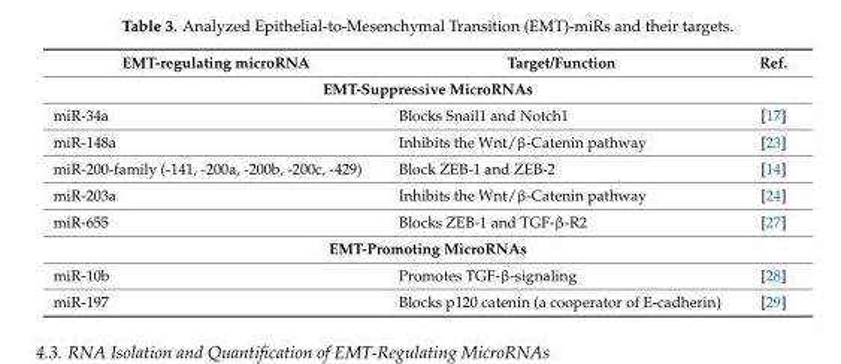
<table><thead><tr><td>EMT-regulating microRNA</td><td>Target/Function</td><td>Ref.</td></tr></thead><tbody><tr><td colspan="3">EMT-Suppressive MicroRNAs</td></tr><tr><td>miR-34a</td><td>Blocks Snail1 and Notch1</td><td>[17]</td></tr><tr><td>miR-148a</td><td>Inhibits the Wnt/β-Catenin pathway</td><td>[23]</td></tr><tr><td>miR-200-family (-141, -200a, -200b, -200c, -429)</td><td>Block ZEB-1 and ZEB-2</td><td>[14]</td></tr><tr><td>miR-203a</td><td>Inhibits the Wnt/β-Catenin pathway</td><td>[24]</td></tr><tr><td>miR-655</td><td>Blocks ZEB-1 and TGF-β-R2</td><td>[27]</td></tr><tr><td colspan="3">EMT-Promoting MicroRNAs</td></tr><tr><td>miR-10b</td><td>Promotes TGF-β-signaling</td><td>[28]</td></tr><tr><td>miR-197</td><td>Blocks p120 catenin (a cooperator of E-cadherin)</td><td>[29]</td></tr></tbody></table>